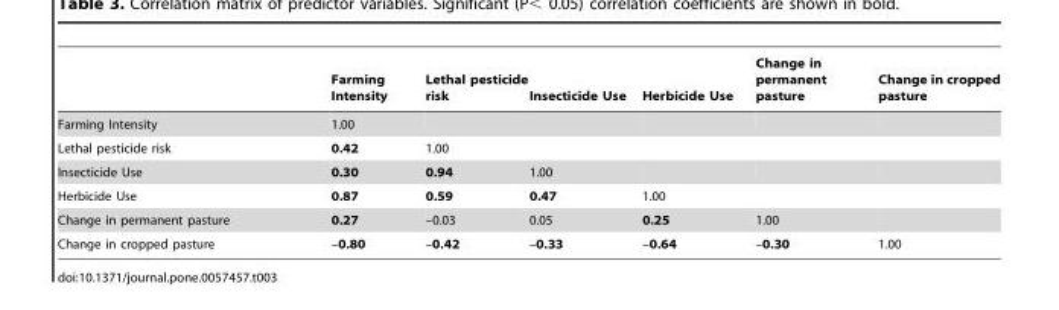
<table><thead><tr><td></td><td>Farming Intensity</td><td>Lethal pesticide risk</td><td>Insecticide Use</td><td>Herbicide Use</td><td>Change in permanent pasture</td><td>Change in cropped pasture</td></tr></thead><tbody><tr><td>Farming Intensity</td><td>1.00</td><td></td><td></td><td></td><td></td><td></td></tr><tr><td>Lethal pesticide risk</td><td>0.42</td><td>1.00</td><td></td><td></td><td></td><td></td></tr><tr><td>Insecticide Use</td><td>0.30</td><td>0.94</td><td>1.00</td><td></td><td></td><td></td></tr><tr><td>Herbicide Use</td><td>0.87</td><td>0.59</td><td>0.47</td><td>1.00</td><td></td><td></td></tr><tr><td>Change in permanent pasture</td><td>0.27</td><td>–0.03</td><td>0.05</td><td>0.25</td><td>1.00</td><td></td></tr><tr><td>Change in cropped pasture</td><td>–0.80</td><td>–0.42</td><td>–0.33</td><td>–0.64</td><td>–0.30</td><td>1.00</td></tr></tbody></table>